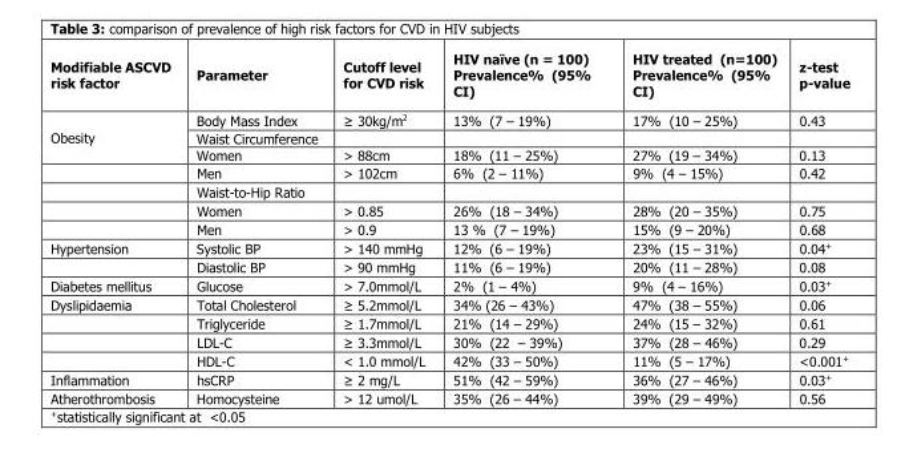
<table><thead><tr><td>Modifiable ASCVD risk factor</td><td>Parameter</td><td>Cutoff level for CVD risk</td><td>HIV naïve (n = 100) Prevalence% (95% CI)</td><td>HIV treated (n=100) Prevalence% (95% CI)</td><td>z-test p-value</td></tr></thead><tbody><tr><td rowspan="7">Obesity</td><td>Body Mass Index</td><td>≥ 30kg/m<sup>2</sup></td><td>13% (7 – 19%)</td><td>17% (10 – 25%)</td><td>0.43</td></tr><tr><td>Waist Circumference</td><td></td><td></td><td></td><td></td></tr><tr><td>Women</td><td>&gt; 88cm</td><td>18% (11 – 25%)</td><td>27% (19 – 34%)</td><td>0.13</td></tr><tr><td>Men</td><td>&gt; 102cm</td><td>6% (2 – 11%)</td><td>9% (4 – 15%)</td><td>0.42</td></tr><tr><td>Waist-to-Hip Ratio</td><td></td><td></td><td></td><td></td></tr><tr><td>Women</td><td>&gt; 0.85</td><td>26% (18 – 34%)</td><td>28% (20 – 35%)</td><td>0.75</td></tr><tr><td>Men</td><td>&gt; 0.9</td><td>13 % (7 – 19%)</td><td>15% (9 – 20%)</td><td>0.68</td></tr><tr><td rowspan="2">Hypertension</td><td>Systolic BP</td><td>&gt; 140 mmHg</td><td>12% (6 – 19%)</td><td>23% (15 – 31%)</td><td>0.04<sup>+</sup></td></tr><tr><td>Diastolic BP</td><td>&gt; 90 mmHg</td><td>11% (6 – 19%)</td><td>20% (11 – 28%)</td><td>0.08</td></tr><tr><td>Diabetes mellitus</td><td>Glucose</td><td>&gt; 7.0mmol/L</td><td>2% (1 – 4%)</td><td>9% (4 – 16%)</td><td>0.03<sup>+</sup></td></tr><tr><td rowspan="4">Dyslipidaemia</td><td>Total Cholesterol</td><td>≥ 5.2mmol/L</td><td>34% (26 – 43%)</td><td>47% (38 – 55%)</td><td>0.06</td></tr><tr><td>Triglyceride</td><td>≥ 1.7mmol/L</td><td>21% (14 – 29%)</td><td>24% (15 – 32%)</td><td>0.61</td></tr><tr><td>LDL-C</td><td>≥ 3.3mmol/L</td><td>30% (22 – 39%)</td><td>37% (28 – 46%)</td><td>0.29</td></tr><tr><td>HDL-C</td><td>&lt; 1.0 mmol/L</td><td>42% (33 – 50%)</td><td>11% (5 – 17%)</td><td>&lt;0.001<sup>+</sup></td></tr><tr><td>Inflammation</td><td>hsCRP</td><td>≥ 2 mg/L</td><td>51% (42 – 59%)</td><td>36% (27 – 46%)</td><td>0.03<sup>+</sup></td></tr><tr><td>Atherothrombosis</td><td>Homocysteine</td><td>&gt; 12 umol/L</td><td>35% (26 – 44%)</td><td>39% (29 – 49%)</td><td>0.56</td></tr></tbody></table>